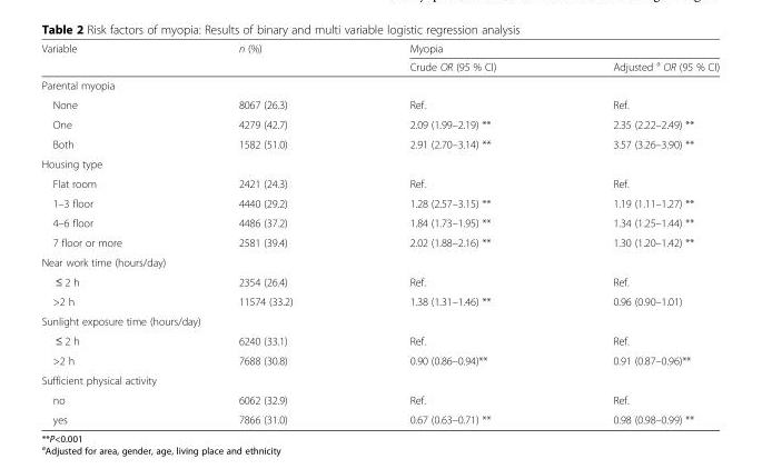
<table><thead><tr><td rowspan="2">Variable</td><td rowspan="2">n (%)</td><td colspan="2">Myopia</td></tr><tr><td>Crude OR (95 % CI)</td><td>Adjusted <sup>a</sup> OR (95 % CI)</td></tr></thead><tbody><tr><td colspan="4">Parental myopia</td></tr><tr><td>None</td><td>8067 (26.3)</td><td>Ref.</td><td>Ref.</td></tr><tr><td>One</td><td>4279 (42.7)</td><td>2.09 (1.99–2.19) **</td><td>2.35 (2.22–2.49) **</td></tr><tr><td>Both</td><td>1582 (51.0)</td><td>2.91 (2.70–3.14) **</td><td>3.57 (3.26–3.90) **</td></tr><tr><td colspan="4">Housing type</td></tr><tr><td>Flat room</td><td>2421 (24.3)</td><td>Ref.</td><td>Ref.</td></tr><tr><td>1–3 floor</td><td>4440 (29.2)</td><td>1.28 (2.57–3.15) **</td><td>1.19 (1.11–1.27) **</td></tr><tr><td>4–6 floor</td><td>4486 (37.2)</td><td>1.84 (1.73–1.95) **</td><td>1.34 (1.25–1.44) **</td></tr><tr><td>7 floor or more</td><td>2581 (39.4)</td><td>2.02 (1.88–2.16) **</td><td>1.30 (1.20–1.42) **</td></tr><tr><td colspan="4">Near work time (hours/day)</td></tr><tr><td>≤ 2 h</td><td>2354 (26.4)</td><td>Ref.</td><td>Ref.</td></tr><tr><td>&gt;2 h</td><td>11574 (33.2)</td><td>1.38 (1.31–1.46) **</td><td>0.96 (0.90–1.01)</td></tr><tr><td colspan="4">Sunlight exposure time (hours/day)</td></tr><tr><td>≤ 2 h</td><td>6240 (33.1)</td><td>Ref.</td><td>Ref.</td></tr><tr><td>&gt;2 h</td><td>7688 (30.8)</td><td>0.90 (0.86–0.94)**</td><td>0.91 (0.87–0.96)**</td></tr><tr><td colspan="4">Sufficient physical activity</td></tr><tr><td>no</td><td>6062 (32.9)</td><td>Ref.</td><td>Ref.</td></tr><tr><td>yes</td><td>7866 (31.0)</td><td>0.67 (0.63–0.71) **</td><td>0.98 (0.98–0.99) **</td></tr></tbody></table>